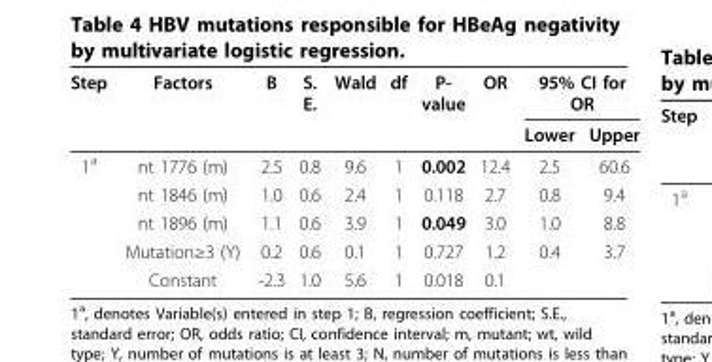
<table><thead><tr><td rowspan="2">Step</td><td rowspan="2">Factors</td><td rowspan="2">B</td><td rowspan="2">S. E.</td><td rowspan="2">Wald</td><td rowspan="2">df</td><td rowspan="2">P- value</td><td rowspan="2">OR</td><td colspan="2">95% CI for OR</td></tr><tr><td>Lower</td><td>Upper</td></tr></thead><tbody><tr><td rowspan="5">1<sup>a</sup></td><td>nt 1776 (m)</td><td>2.5</td><td>0.8</td><td>9.6</td><td>1</td><td>0.002</td><td>12.4</td><td>2.5</td><td>60.6</td></tr><tr><td>nt 1846 (m)</td><td>1.0</td><td>0.6</td><td>2.4</td><td>1</td><td>0.118</td><td>2.7</td><td>0.8</td><td>9.4</td></tr><tr><td>nt 1896 (m)</td><td>1.1</td><td>0.6</td><td>3.9</td><td>1</td><td>0.049</td><td>3.0</td><td>1.0</td><td>8.8</td></tr><tr><td>Mutation≥3 (Y)</td><td>0.2</td><td>0.6</td><td>0.1</td><td>1</td><td>0.727</td><td>1.2</td><td>0.4</td><td>3.7</td></tr><tr><td>Constant</td><td>-2.3</td><td>1.0</td><td>5.6</td><td>1</td><td>0.018</td><td>0.1</td><td></td><td></td></tr></tbody></table>